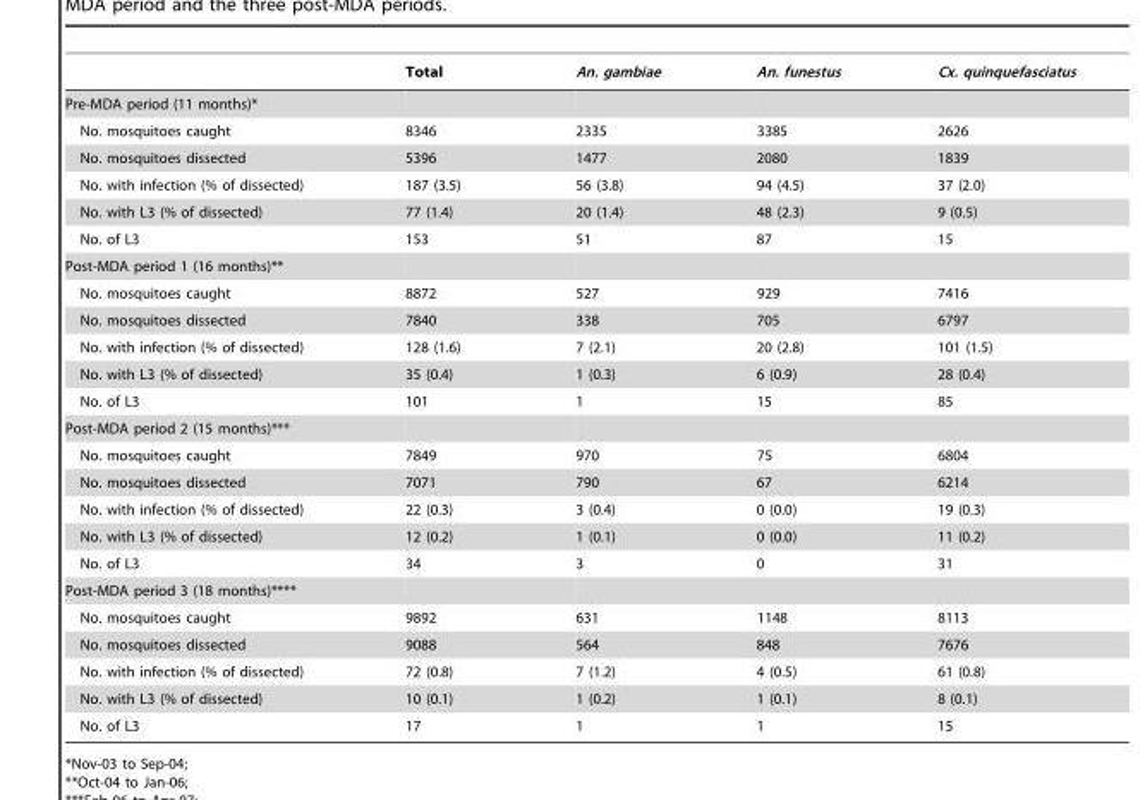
<table><thead><tr><td></td><td>Total</td><td>An. gambiae</td><td>An. funestus</td><td>Cx. quinquefasciatus</td></tr></thead><tbody><tr><td colspan="5">Pre-MDA period (11 months)*</td></tr><tr><td>No. mosquitoes caught</td><td>8346</td><td>2335</td><td>3385</td><td>2626</td></tr><tr><td>No. mosquitoes dissected</td><td>5396</td><td>1477</td><td>2080</td><td>1839</td></tr><tr><td>No. with infection (% of dissected)</td><td>187 (3.5)</td><td>56 (3.8)</td><td>94 (4.5)</td><td>37 (2.0)</td></tr><tr><td>No. with L3 (% of dissected)</td><td>77 (1.4)</td><td>20 (1.4)</td><td>48 (2.3)</td><td>9 (0.5)</td></tr><tr><td>No. of L3</td><td>153</td><td>51</td><td>87</td><td>15</td></tr><tr><td colspan="5">Post-MDA period 1 (16 months)**</td></tr><tr><td>No. mosquitoes caught</td><td>8872</td><td>527</td><td>929</td><td>7416</td></tr><tr><td>No. mosquitoes dissected</td><td>7840</td><td>338</td><td>705</td><td>6797</td></tr><tr><td>No. with infection (% of dissected)</td><td>128 (1.6)</td><td>7 (2.1)</td><td>20 (2.8)</td><td>101 (1.5)</td></tr><tr><td>No. with L3 (% of dissected)</td><td>35 (0.4)</td><td>1 (0.3)</td><td>6 (0.9)</td><td>28 (0.4)</td></tr><tr><td>No. of L3</td><td>101</td><td>1</td><td>15</td><td>85</td></tr><tr><td colspan="5">Post-MDA period 2 (15 months)***</td></tr><tr><td>No. mosquitoes caught</td><td>7849</td><td>970</td><td>75</td><td>6804</td></tr><tr><td>No. mosquitoes dissected</td><td>7071</td><td>790</td><td>67</td><td>6214</td></tr><tr><td>No. with infection (% of dissected)</td><td>22 (0.3)</td><td>3 (0.4)</td><td>0 (0.0)</td><td>19 (0.3)</td></tr><tr><td>No. with L3 (% of dissected)</td><td>12 (0.2)</td><td>1 (0.1)</td><td>0 (0.0)</td><td>11 (0.2)</td></tr><tr><td>No. of L3</td><td>34</td><td>3</td><td>0</td><td>31</td></tr><tr><td colspan="5">Post-MDA period 3 (18 months)****</td></tr><tr><td>No. mosquitoes caught</td><td>9892</td><td>631</td><td>1148</td><td>8113</td></tr><tr><td>No. mosquitoes dissected</td><td>9088</td><td>564</td><td>848</td><td>7676</td></tr><tr><td>No. with infection (% of dissected)</td><td>72 (0.8)</td><td>7 (1.2)</td><td>4 (0.5)</td><td>61 (0.8)</td></tr><tr><td>No. with L3 (% of dissected)</td><td>10 (0.1)</td><td>1 (0.2)</td><td>1 (0.1)</td><td>8 (0.1)</td></tr><tr><td>No. of L3</td><td>17</td><td>1</td><td>1</td><td>15</td></tr></tbody></table>